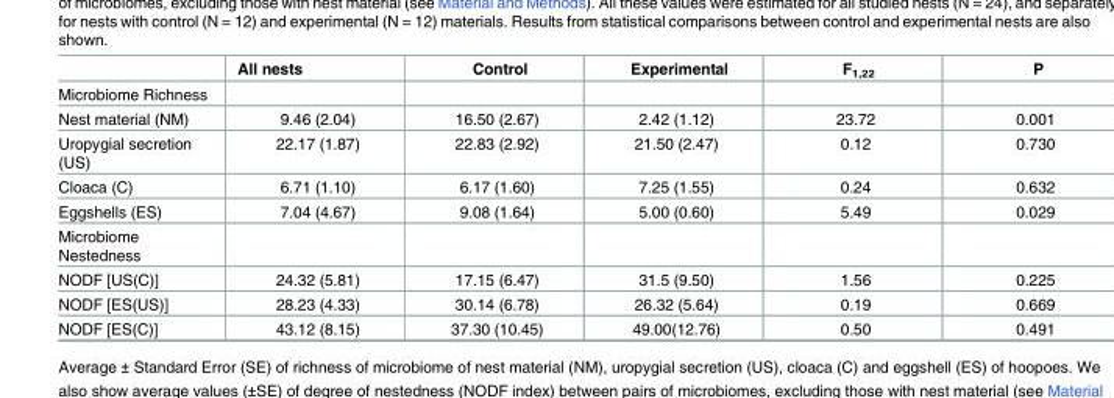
<table><thead><tr><td></td><td>All nests</td><td>Control</td><td>Experimental</td><td>F<sub>1,22</sub></td><td>P</td></tr></thead><tbody><tr><td colspan="6">Microbiome Richness</td></tr><tr><td>Nest material (NM)</td><td>9.46 (2.04)</td><td>16.50 (2.67)</td><td>2.42 (1.12)</td><td>23.72</td><td>0.001</td></tr><tr><td>Uropygial secretion (US)</td><td>22.17 (1.87)</td><td>22.83 (2.92)</td><td>21.50 (2.47)</td><td>0.12</td><td>0.730</td></tr><tr><td>Cloaca (C)</td><td>6.71 (1.10)</td><td>6.17 (1.60)</td><td>7.25 (1.55)</td><td>0.24</td><td>0.632</td></tr><tr><td>Eggshells (ES)</td><td>7.04 (4.67)</td><td>9.08 (1.64)</td><td>5.00 (0.60)</td><td>5.49</td><td>0.029</td></tr><tr><td colspan="6">Microbiome Nestedness</td></tr><tr><td>NODF [US(C)]</td><td>24.32 (5.81)</td><td>17.15 (6.47)</td><td>31.5 (9.50)</td><td>1.56</td><td>0.225</td></tr><tr><td>NODF [ES(US)]</td><td>28.23 (4.33)</td><td>30.14 (6.78)</td><td>26.32 (5.64)</td><td>0.19</td><td>0.669</td></tr><tr><td>NODF [ES(C)]</td><td>43.12 (8.15)</td><td>37.30 (10.45)</td><td>49.00(12.76)</td><td>0.50</td><td>0.491</td></tr></tbody></table>